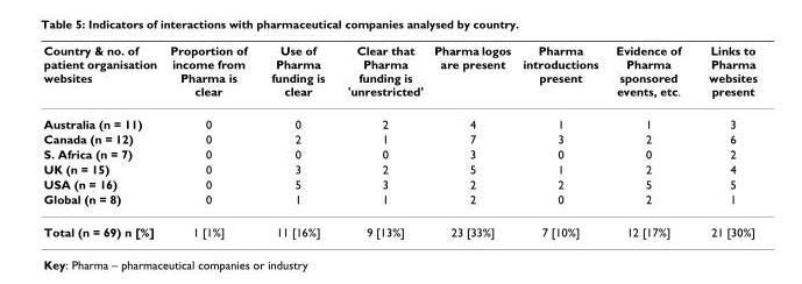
<table><thead><tr><td>Country &amp; no. of patient organisation websites</td><td>Proportion of income from Pharma is clear</td><td>Use of Pharma funding is clear</td><td>Clear that Pharma funding is &#x27;unrestricted&#x27;</td><td>Pharma logos are present</td><td>Pharma introductions present</td><td>Evidence of Pharma sponsored events, etc.</td><td>Links to Pharma websites present</td></tr></thead><tbody><tr><td>Australia (n = 11)</td><td>0</td><td>0</td><td>2</td><td>4</td><td>1</td><td>1</td><td>3</td></tr><tr><td>Canada (n = 12)</td><td>0</td><td>2</td><td>1</td><td>7</td><td>3</td><td>2</td><td>6</td></tr><tr><td>S. Africa (n = 7)</td><td>0</td><td>0</td><td>0</td><td>3</td><td>0</td><td>0</td><td>2</td></tr><tr><td>UK (n = 15)</td><td>0</td><td>3</td><td>2</td><td>5</td><td>1</td><td>2</td><td>4</td></tr><tr><td>USA (n = 16)</td><td>0</td><td>5</td><td>3</td><td>2</td><td>2</td><td>5</td><td>5</td></tr><tr><td>Global (n = 8)</td><td>0</td><td>1</td><td>1</td><td>2</td><td>0</td><td>2</td><td>1</td></tr><tr><td>Total (n = 69) n [%]</td><td>1 [1%]</td><td>11 [16%]</td><td>9 [13%]</td><td>23 [33%]</td><td>7 [10%]</td><td>12 [17%]</td><td>21 [30%]</td></tr></tbody></table>